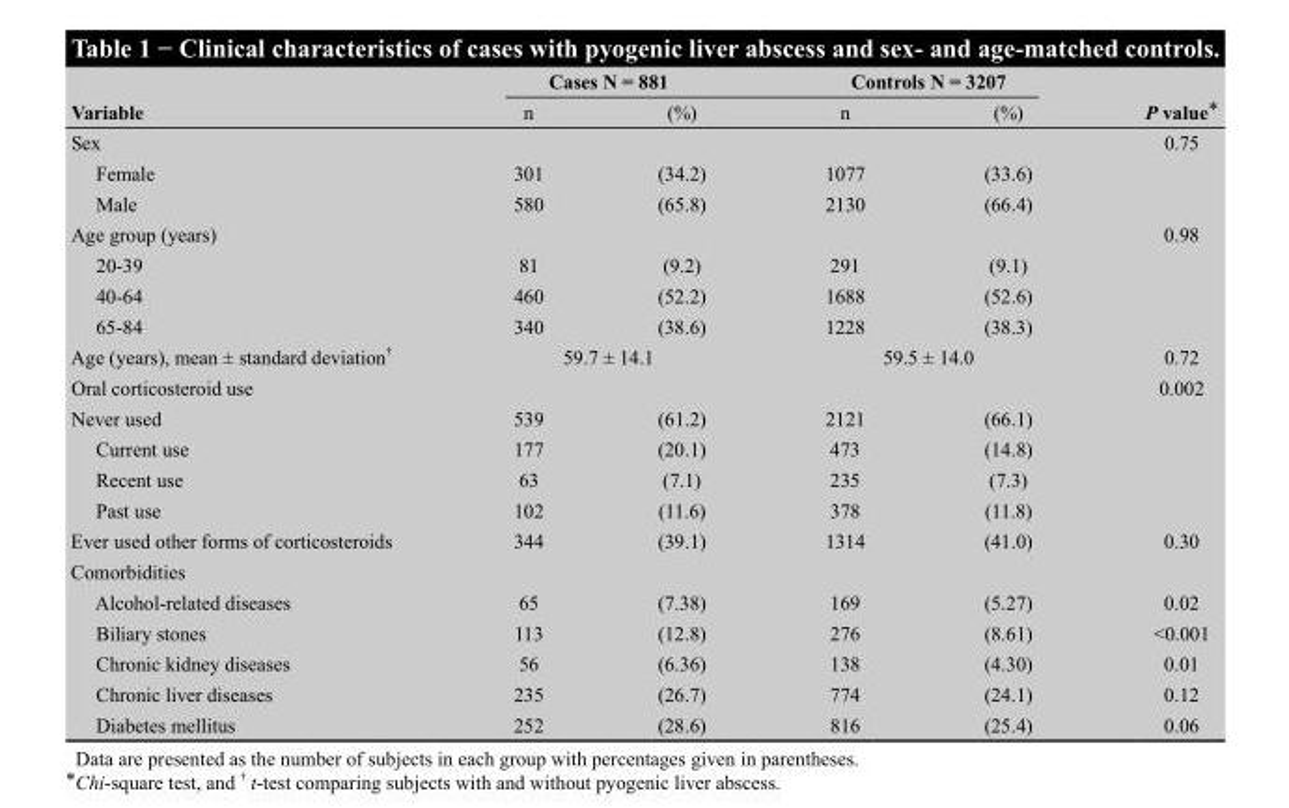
<table><thead><tr><td rowspan="2">Variable</td><td colspan="2">Cases N = 881</td><td colspan="2">Controls N = 3207</td><td rowspan="2">P value*</td></tr><tr><td>n</td><td>(%)</td><td>n</td><td>(%)</td></tr></thead><tbody><tr><td>Sex</td><td></td><td></td><td></td><td></td><td>0.75</td></tr><tr><td>Female</td><td>301</td><td>(34.2)</td><td>1077</td><td>(33.6)</td><td></td></tr><tr><td>Male</td><td>580</td><td>(65.8)</td><td>2130</td><td>(66.4)</td><td></td></tr><tr><td>Age group (years)</td><td></td><td></td><td></td><td></td><td>0.98</td></tr><tr><td>20-39</td><td>81</td><td>(9.2)</td><td>291</td><td>(9.1)</td><td></td></tr><tr><td>40-64</td><td>460</td><td>(52.2)</td><td>1688</td><td>(52.6)</td><td></td></tr><tr><td>65-84</td><td>340</td><td>(38.6)</td><td>1228</td><td>(38.3)</td><td></td></tr><tr><td>Age (years), mean ± standard deviation †</td><td>59.7</td><td>± 14.1</td><td>59.5 ±</td><td>14.0</td><td>0.72</td></tr><tr><td>Oral corticosteroid use</td><td></td><td></td><td></td><td></td><td>0.002</td></tr><tr><td>Never used</td><td>539</td><td>(61.2)</td><td>2121</td><td>(66.1)</td><td></td></tr><tr><td>Current use</td><td>177</td><td>(20.1)</td><td>473</td><td>(14.8)</td><td></td></tr><tr><td>Recent use</td><td>63</td><td>(7.1)</td><td>235</td><td>(7.3)</td><td></td></tr><tr><td>Past use</td><td>102</td><td>(11.6)</td><td>378</td><td>(11.8)</td><td></td></tr><tr><td>Ever used other forms of corticosteroids</td><td>344</td><td>(39.1)</td><td>1314</td><td>(41.0)</td><td>0.30</td></tr><tr><td colspan="6">Comorbidities</td></tr><tr><td>Alcohol-related diseases</td><td>65</td><td>(7.38)</td><td>169</td><td>(5.27)</td><td>0.02</td></tr><tr><td>Biliary stones</td><td>113</td><td>(12.8)</td><td>276</td><td>(8.61)</td><td>&lt;0.001</td></tr><tr><td>Chronic kidney diseases</td><td>56</td><td>(6.36)</td><td>138</td><td>(4.30)</td><td>0.01</td></tr><tr><td>Chronic liver diseases</td><td>235</td><td>(26.7)</td><td>774</td><td>(24.1)</td><td>0.12</td></tr><tr><td>Diabetes mellitus</td><td>252</td><td>(28.6)</td><td>816</td><td>(25.4)</td><td>0.06</td></tr></tbody></table>